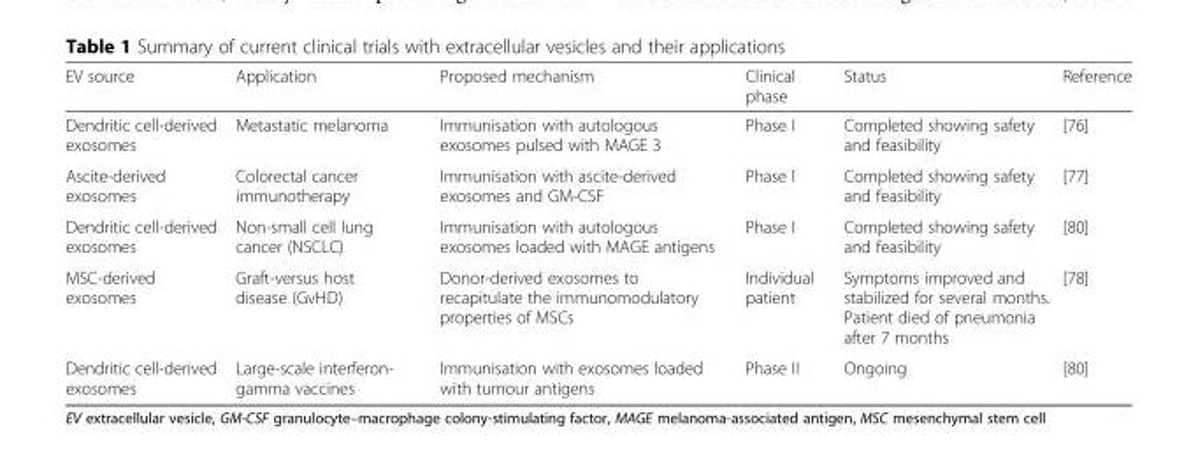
<table><thead><tr><td>EV source</td><td>Application</td><td>Proposed mechanism</td><td>Clinical phase</td><td>Status</td><td>Reference</td></tr></thead><tbody><tr><td>Dendritic cell-derived exosomes</td><td>Metastatic melanoma</td><td>Immunisation with autologous exosomes pulsed with MAGE 3</td><td>Phase I</td><td>Completed showing safety and feasibility</td><td>[76]</td></tr><tr><td>Ascite-derived exosomes</td><td>Colorectal cancer immunotherapy</td><td>Immunisation with ascite-derived exosomes and GM-CSF</td><td>Phase I</td><td>Completed showing safety and feasibility</td><td>[77]</td></tr><tr><td>Dendritic cell-derived exosomes</td><td>Non-small cell lung cancer (NSCLC)</td><td>Immunisation with autologous exosomes loaded with MAGE antigens</td><td>Phase I</td><td>Completed showing safety and feasibility</td><td>[80]</td></tr><tr><td>MSC-derived exosomes</td><td>Graft-versus host disease (GvHD)</td><td>Donor-derived exosomes to recapitulate the immunomodulatory properties of MSCs</td><td>Individual patient</td><td>Symptoms improved and stabilized for several months. Patient died of pneumonia after 7 months</td><td>[78]</td></tr><tr><td>Dendritic cell-derived exosomes</td><td>Large-scale interferon- gamma vaccines</td><td>Immunisation with exosomes loaded with tumour antigens</td><td>Phase II</td><td>Ongoing</td><td>[80]</td></tr></tbody></table>